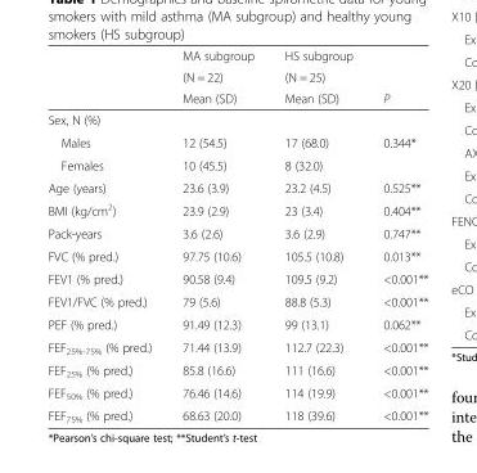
<table><thead><tr><td rowspan="3"></td><td rowspan="3">MA subgroup (N = 22) Mean (SD)</td><td rowspan="3">HS subgroup (N = 25) Mean (SD)</td><td rowspan="3">P</td></tr><tr></tr><tr></tr></thead><tbody><tr><td colspan="4">Sex, N (%)</td></tr><tr><td>Males</td><td>12 (54.5)</td><td>17 (68.0)</td><td>0.344*</td></tr><tr><td>Females</td><td>10 (45.5)</td><td>8 (32.0)</td><td></td></tr><tr><td>Age (years)</td><td>23.6 (3.9)</td><td>23.2 (4.5)</td><td>0.525**</td></tr><tr><td>BMI (kg/cm<sup>2</sup>)</td><td>23.9 (2.9)</td><td>23 (3.4)</td><td>0.404**</td></tr><tr><td>Pack-years</td><td>3.6 (2.6)</td><td>3.6 (2.9)</td><td>0.747**</td></tr><tr><td>FVC (% pred.)</td><td>97.75 (10.6)</td><td>105.5 (10.8)</td><td>0.013**</td></tr><tr><td>FEV1 (% pred.)</td><td>90.58 (9.4)</td><td>109.5 (9.2)</td><td>&lt;0.001**</td></tr><tr><td>FEV1/FVC (% pred.)</td><td>79 (5.6)</td><td>88.8 (5.3)</td><td>&lt;0.001**</td></tr><tr><td>PEF (% pred.)</td><td>91.49 (12.3)</td><td>99 (13.1)</td><td>0.062**</td></tr><tr><td>FEF<sub>25%-75%</sub> (% pred.)</td><td>71.44 (13.9)</td><td>112.7 (22.3)</td><td>&lt;0.001**</td></tr><tr><td>FEF<sub>25%</sub> (% pred.)</td><td>85.8 (16.6)</td><td>111 (16.6)</td><td>&lt;0.001**</td></tr><tr><td>FEF<sub>50%</sub> (% pred.)</td><td>76.46 (14.6)</td><td>114 (19.9)</td><td>&lt;0.001**</td></tr><tr><td>FEF<sub>75%</sub> (% pred.)</td><td>68.63 (20.0)</td><td>118 (39.6)</td><td>&lt;0.001**</td></tr></tbody></table>